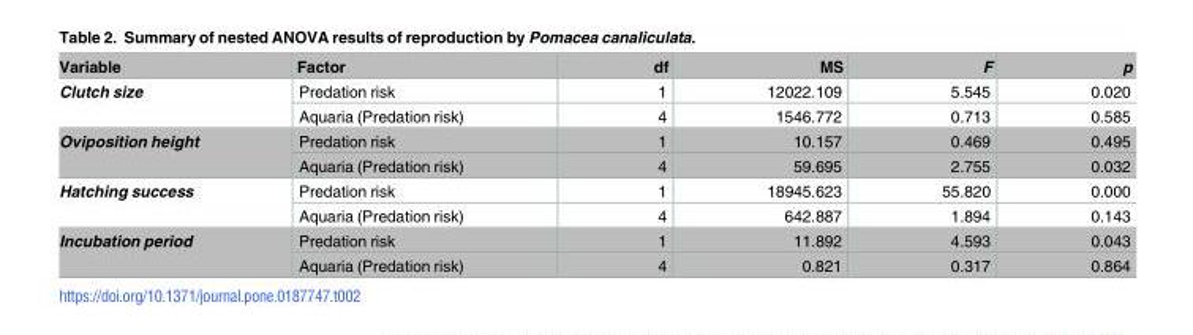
<table><thead><tr><td>Variable</td><td>Factor</td><td>df</td><td>MS</td><td>F</td><td>p</td></tr></thead><tbody><tr><td rowspan="2">Clutch size</td><td>Predation risk</td><td>1</td><td>12022.109</td><td>5.545</td><td>0.020</td></tr><tr><td>Aquaria (Predation risk)</td><td>4</td><td>1546.772</td><td>0.713</td><td>0.585</td></tr><tr><td rowspan="2">Oviposition height</td><td>Predation risk</td><td>1</td><td>10.157</td><td>0.469</td><td>0.495</td></tr><tr><td>Aquaria (Predation risk)</td><td>4</td><td>59.695</td><td>2.755</td><td>0.032</td></tr><tr><td rowspan="2">Hatching success</td><td>Predation risk</td><td>1</td><td>18945.623</td><td>55.820</td><td>0.000</td></tr><tr><td>Aquaria (Predation risk)</td><td>4</td><td>642.887</td><td>1.894</td><td>0.143</td></tr><tr><td rowspan="2">Incubation period</td><td>Predation risk</td><td>1</td><td>11.892</td><td>4.593</td><td>0.043</td></tr><tr><td>Aquaria (Predation risk)</td><td>4</td><td>0.821</td><td>0.317</td><td>0.864</td></tr></tbody></table>